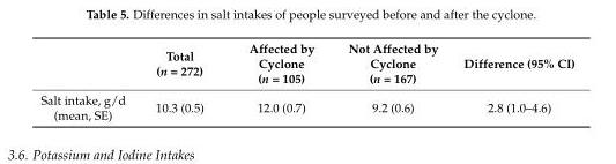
<table><thead><tr><td></td><td>Total (n = 272)</td><td>Affected by Cyclone (n = 105)</td><td>Not Affected by Cyclone (n = 167)</td><td>Difference (95% CI)</td></tr></thead><tbody><tr><td>Salt intake, g/d (mean, SE)</td><td>10.3 (0.5)</td><td>12.0 (0.7)</td><td>9.2 (0.6)</td><td>2.8 (1.0–4.6)</td></tr></tbody></table>